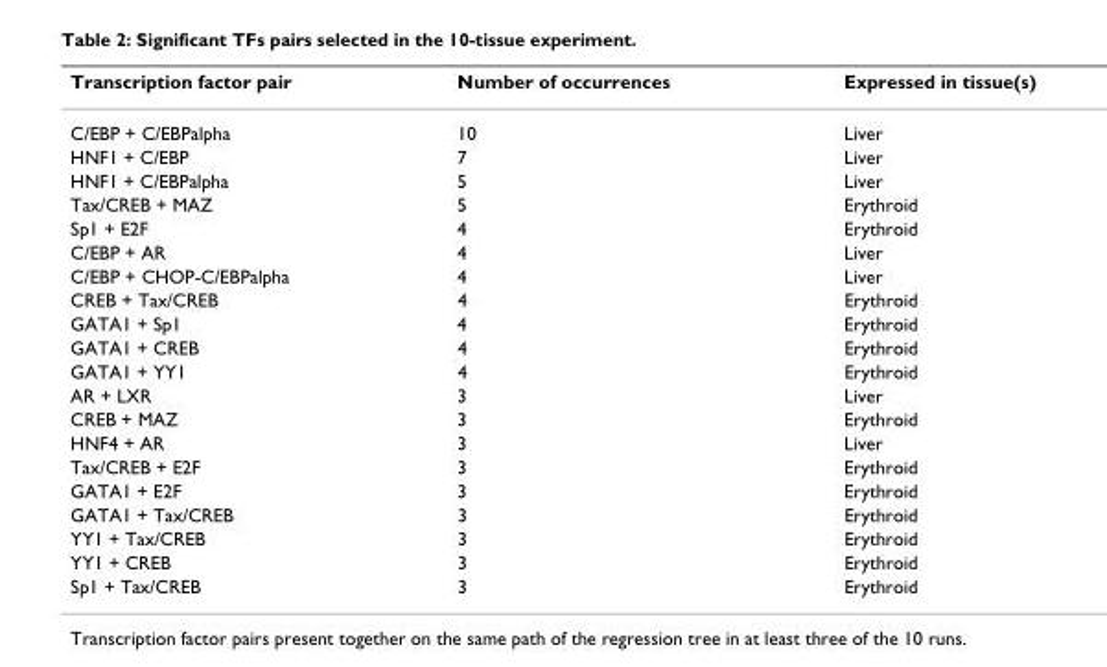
<table><thead><tr><td>Transcription factor pair</td><td>Number of occurrences</td><td>Expressed in tissue(s)</td></tr></thead><tbody><tr><td>C/EBP + C/EBPalpha</td><td>10</td><td>Liver</td></tr><tr><td>HNF1 + C/EBP</td><td>7</td><td>Liver</td></tr><tr><td>HNF1 + C/EBPalpha</td><td>5</td><td>Liver</td></tr><tr><td>Tax/CREB + MAZ</td><td>5</td><td>Erythroid</td></tr><tr><td>Sp1 + E2F</td><td>4</td><td>Erythroid</td></tr><tr><td>C/EBP + AR</td><td>4</td><td>Liver</td></tr><tr><td>C/EBP + CHOP-C/EBPalpha</td><td>4</td><td>Liver</td></tr><tr><td>CREB + Tax/CREB</td><td>4</td><td>Erythroid</td></tr><tr><td>GATA1 + Sp1</td><td>4</td><td>Erythroid</td></tr><tr><td>GATA1 + CREB</td><td>4</td><td>Erythroid</td></tr><tr><td>GATA1 + YY1</td><td>4</td><td>Erythroid</td></tr><tr><td>AR + LXR</td><td>3</td><td>Liver</td></tr><tr><td>CREB + MAZ</td><td>3</td><td>Erythroid</td></tr><tr><td>HNF4 + AR</td><td>3</td><td>Liver</td></tr><tr><td>Tax/CREB + E2F</td><td>3</td><td>Erythroid</td></tr><tr><td>GATA1 + E2F</td><td>3</td><td>Erythroid</td></tr><tr><td>GATA1 + Tax/CREB</td><td>3</td><td>Erythroid</td></tr><tr><td>YY1 + Tax/CREB</td><td>3</td><td>Erythroid</td></tr><tr><td>YY1 + CREB</td><td>3</td><td>Erythroid</td></tr><tr><td>Sp1 + Tax/CREB</td><td>3</td><td>Erythroid</td></tr></tbody></table>